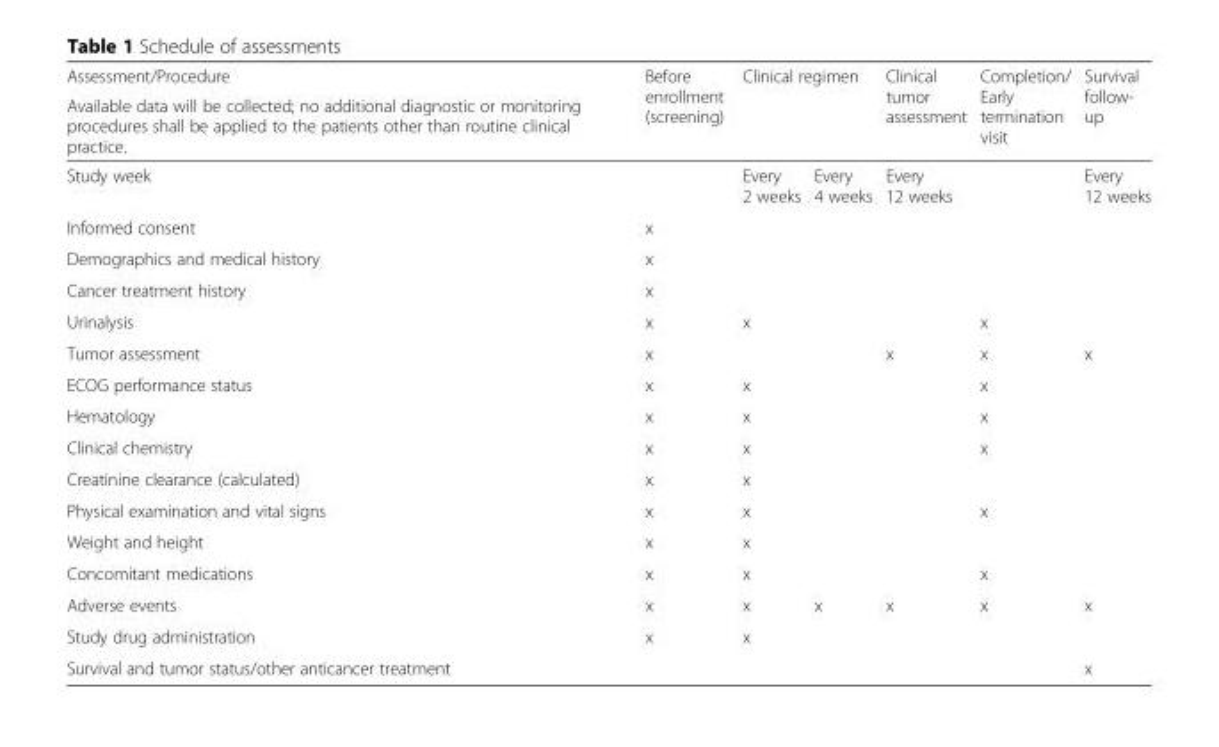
<table><thead><tr><td rowspan="3">Assessment/Procedure Available data will be collected; no additional diagnostic or monitoring procedures shall be applied to the patients other than routine clinical practice. Study week</td><td rowspan="3">Before enrollment (screening)</td><td rowspan="2" colspan="2">Clinical regimen</td><td rowspan="3">Clinical tumor assessment Every 12 weeks</td><td rowspan="3">Completion/ Early termination visit</td><td rowspan="3">Survival follow- up Every 12 weeks</td></tr><tr></tr><tr><td>Every 2 weeks</td><td>Every 4 weeks</td></tr></thead><tbody><tr><td>Informed consent</td><td>x</td><td></td><td></td><td></td><td></td><td></td></tr><tr><td>Demographics and medical history</td><td>x</td><td></td><td></td><td></td><td></td><td></td></tr><tr><td>Cancer treatment history</td><td>x</td><td></td><td></td><td></td><td></td><td></td></tr><tr><td>Urinalysis</td><td>x</td><td>x</td><td></td><td></td><td>x</td><td></td></tr><tr><td>Tumor assessment</td><td>x</td><td></td><td></td><td>x</td><td>x</td><td>x</td></tr><tr><td>ECOG performance status</td><td>x</td><td>x</td><td></td><td></td><td>x</td><td></td></tr><tr><td>Hematology</td><td>x</td><td>x</td><td></td><td></td><td>x</td><td></td></tr><tr><td>Clinical chemistry</td><td>x</td><td>x</td><td></td><td></td><td>x</td><td></td></tr><tr><td>Creatinine clearance (calculated)</td><td>x</td><td>x</td><td></td><td></td><td></td><td></td></tr><tr><td>Physical examination and vital signs</td><td>x</td><td>x</td><td></td><td></td><td>x</td><td></td></tr><tr><td>Weight and height</td><td>x</td><td>x</td><td></td><td></td><td></td><td></td></tr><tr><td>Concomitant medications</td><td>x</td><td>x</td><td></td><td></td><td>x</td><td></td></tr><tr><td>Adverse events</td><td>x</td><td>x</td><td>x</td><td>x</td><td>x</td><td>x</td></tr><tr><td>Study drug administration</td><td>x</td><td>x</td><td></td><td></td><td></td><td></td></tr><tr><td>Survival and tumor status/other anticancer treatment</td><td></td><td></td><td></td><td></td><td></td><td>x</td></tr></tbody></table>